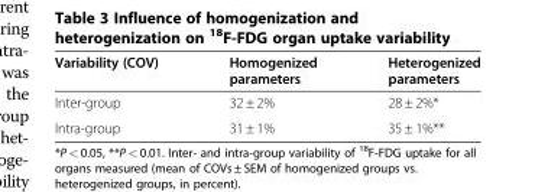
<table><thead><tr><td>Variability (COV)</td><td>Homogenized parameters</td><td>Heterogenized parameters</td></tr></thead><tbody><tr><td>Inter-group</td><td>32 ± 2%</td><td>28 ± 2%*</td></tr><tr><td>Intra-group</td><td>31 ± 1%</td><td>35 ± 1%**</td></tr></tbody></table>